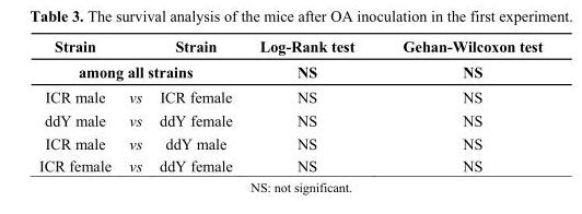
<table><thead><tr><td>Strain</td><td></td><td>Strain</td><td rowspan="2">Log-Rank test NS</td><td rowspan="2">Gehan-Wilcoxon test NS</td></tr><tr><td colspan="3">among all strains</td></tr></thead><tbody><tr><td>ICR male</td><td>vs</td><td>ICR female</td><td>NS</td><td>NS</td></tr><tr><td>ddY male</td><td>vs</td><td>ddY female</td><td>NS</td><td>NS</td></tr><tr><td>ICR male</td><td>vs</td><td>ddY male</td><td>NS</td><td>NS</td></tr><tr><td>ICR female</td><td>vs</td><td>ddY female</td><td>NS</td><td>NS</td></tr></tbody></table>